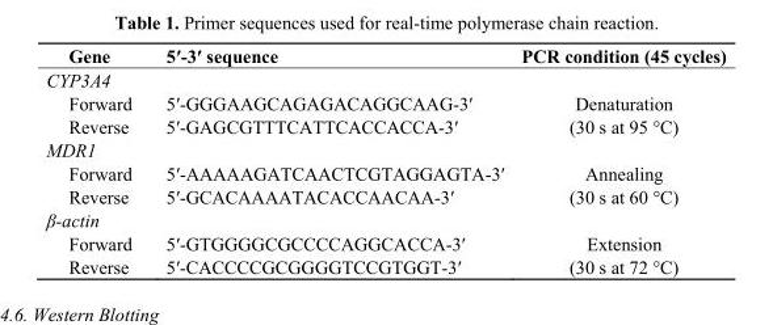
<table><thead><tr><td>Gene</td><td>5′-3′ sequence</td><td>PCR condition (45 cycles)</td></tr></thead><tbody><tr><td colspan="3">CYP3A4</td></tr><tr><td>Forward</td><td>5′-GGGAAGCAGAGACAGGCAAG-3′</td><td>Denaturation</td></tr><tr><td>Reverse</td><td>5′-GAGCGTTTCATTCACCACCA-3′</td><td>(30 s at 95 °C)</td></tr><tr><td colspan="3">MDR1</td></tr><tr><td>Forward</td><td>5′-AAAAAGATCAACTCGTAGGAGTA-3′</td><td>Annealing</td></tr><tr><td>Reverse</td><td>5′-GCACAAAATACACCAACAA-3′</td><td>(30 s at 60 °C)</td></tr><tr><td colspan="3">β-actin</td></tr><tr><td>Forward</td><td>5′-GTGGGGCGCCCCAGGCACCA-3′</td><td>Extension</td></tr><tr><td>Reverse</td><td>5′-CACCCCGCGGGGTCCGTGGT-3′</td><td>(30 s at 72 °C)</td></tr></tbody></table>